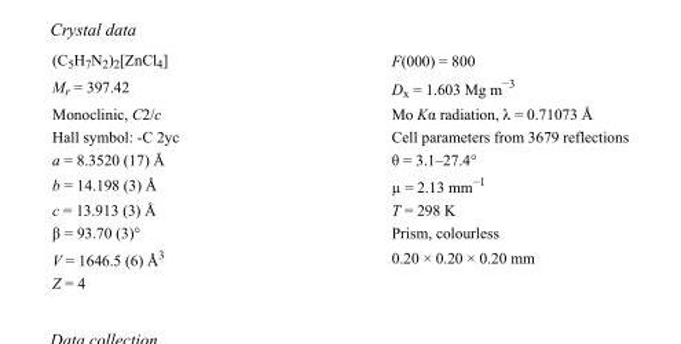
<table><tbody><tr><td>(C<sub>5</sub>H<sub>7</sub>N<sub>2</sub>)<sub>2</sub>[ZnCl<sub>4</sub>]</td><td>F(000) = 800</td></tr><tr><td>M<sub>r</sub> = 397.42</td><td>D<sub>x</sub> = 1.603 Mg m<sup>−3</sup></td></tr><tr><td>Monoclinic, C2/c</td><td>Mo Kα radiation, λ = 0.71073 Å</td></tr><tr><td>Hall symbol: -C 2yc</td><td>Cell parameters from 3679 reflections</td></tr><tr><td>a = 8.3520 (17) Å</td><td>θ = 3.1–27.4°</td></tr><tr><td>b = 14.198 (3) Å</td><td>µ = 2.13 mm<sup>−1</sup></td></tr><tr><td>c = 13.913 (3) Å</td><td>T = 298 K</td></tr><tr><td>β = 93.70 (3)°</td><td>Prism, colourless</td></tr><tr><td>V = 1646.5 (6) Å<sup>3</sup></td><td>0.20 × 0.20 × 0.20 mm</td></tr><tr><td>Z = 4</td><td></td></tr></tbody></table>